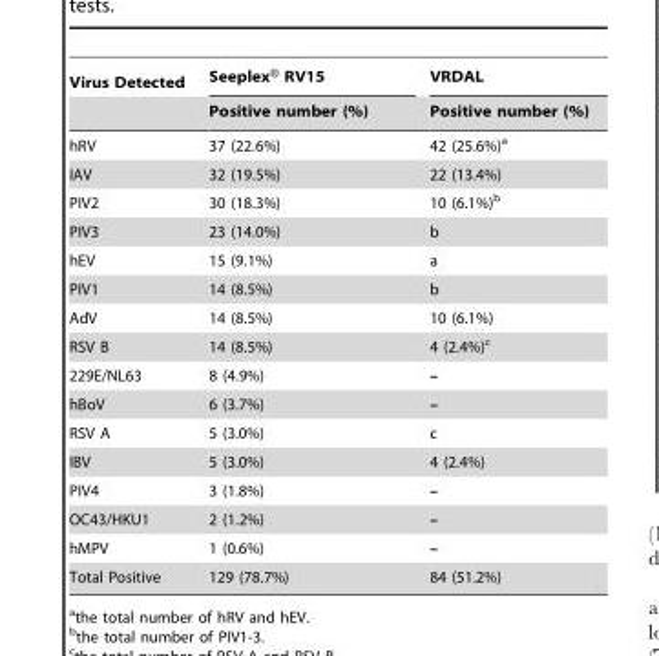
<table><thead><tr><td rowspan="2">Virus Detected</td><td rowspan="2">Seeplex® RV15 Positive number (%)</td><td rowspan="2">VRDAL Positive number (%)</td></tr><tr></tr></thead><tbody><tr><td>hRV</td><td>37 (22.6%)</td><td>42 (25.6%)<sup>a</sup></td></tr><tr><td>IAV</td><td>32 (19.5%)</td><td>22 (13.4%)</td></tr><tr><td>PIV2</td><td>30 (18.3%)</td><td>10 (6.1%)<sup>b</sup></td></tr><tr><td>PIV3</td><td>23 (14.0%)</td><td>b</td></tr><tr><td>hEV</td><td>15 (9.1%)</td><td>a</td></tr><tr><td>PIV1</td><td>14 (8.5%)</td><td>b</td></tr><tr><td>AdV</td><td>14 (8.5%)</td><td>10 (6.1%)</td></tr><tr><td>RSV B</td><td>14 (8.5%)</td><td>4 (2.4%)<sup>c</sup></td></tr><tr><td>229E/NL63</td><td>8 (4.9%)</td><td>–</td></tr><tr><td>hBoV</td><td>6 (3.7%)</td><td>–</td></tr><tr><td>RSV A</td><td>5 (3.0%)</td><td>c</td></tr><tr><td>IBV</td><td>5 (3.0%)</td><td>4 (2.4%)</td></tr><tr><td>PIV4</td><td>3 (1.8%)</td><td>–</td></tr><tr><td>OC43/HKU1</td><td>2 (1.2%)</td><td>–</td></tr><tr><td>hMPV</td><td>1 (0.6%)</td><td>–</td></tr><tr><td>Total Positive</td><td>129 (78.7%)</td><td>84 (51.2%)</td></tr></tbody></table>